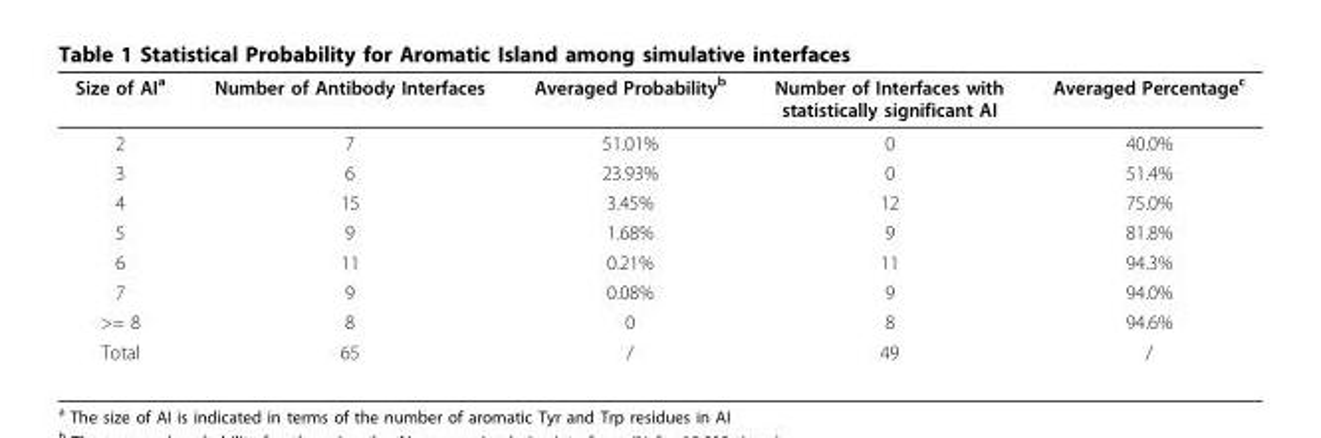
<table><thead><tr><td>Size of AI<sup>a</sup></td><td>Number of Antibody Interfaces</td><td>Averaged Probability<sup>b</sup></td><td>Number of Interfaces with statistically significant AI</td><td>Averaged Percentage<sup>c</sup></td></tr></thead><tbody><tr><td>2</td><td>7</td><td>51.01%</td><td>0</td><td>40.0%</td></tr><tr><td>3</td><td>6</td><td>23.93%</td><td>0</td><td>51.4%</td></tr><tr><td>4</td><td>15</td><td>3.45%</td><td>12</td><td>75.0%</td></tr><tr><td>5</td><td>9</td><td>1.68%</td><td>9</td><td>81.8%</td></tr><tr><td>6</td><td>11</td><td>0.21%</td><td>11</td><td>94.3%</td></tr><tr><td>7</td><td>9</td><td>0.08%</td><td>9</td><td>94.0%</td></tr><tr><td>&gt;= 8</td><td>8</td><td>0</td><td>8</td><td>94.6%</td></tr><tr><td>Total</td><td>65</td><td>/</td><td>49</td><td>/</td></tr></tbody></table>